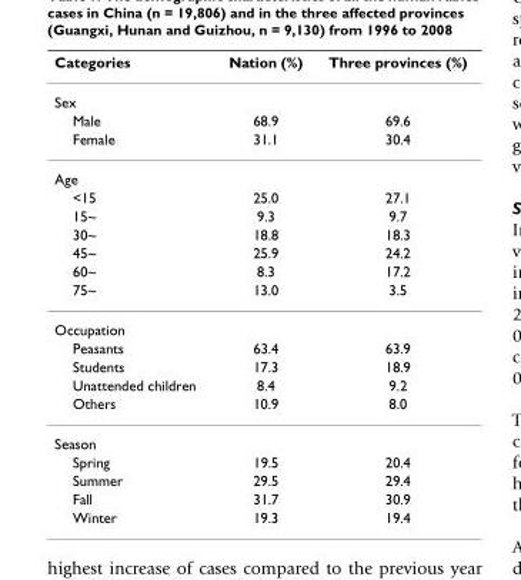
<table><thead><tr><td>Categories</td><td>Nation (%)</td><td>Three provinces (%)</td></tr></thead><tbody><tr><td colspan="3">Sex</td></tr><tr><td>Male</td><td>68.9</td><td>69.6</td></tr><tr><td>Female</td><td>31.1</td><td>30.4</td></tr><tr><td colspan="3">Age</td></tr><tr><td>&lt;15</td><td>25.0</td><td>27.1</td></tr><tr><td>15~</td><td>9.3</td><td>9.7</td></tr><tr><td>30~</td><td>18.8</td><td>18.3</td></tr><tr><td>45~</td><td>25.9</td><td>24.2</td></tr><tr><td>60~</td><td>8.3</td><td>17.2</td></tr><tr><td>75~</td><td>13.0</td><td>3.5</td></tr><tr><td colspan="3">Occupation</td></tr><tr><td>Peasants</td><td>63.4</td><td>63.9</td></tr><tr><td>Students</td><td>17.3</td><td>18.9</td></tr><tr><td>Unattended children</td><td>8.4</td><td>9.2</td></tr><tr><td>Others</td><td>10.9</td><td>8.0</td></tr><tr><td colspan="3">Season</td></tr><tr><td>Spring</td><td>19.5</td><td>20.4</td></tr><tr><td>Summer</td><td>29.5</td><td>29.4</td></tr><tr><td>Fall</td><td>31.7</td><td>30.9</td></tr><tr><td>Winter</td><td>19.3</td><td>19.4</td></tr></tbody></table>